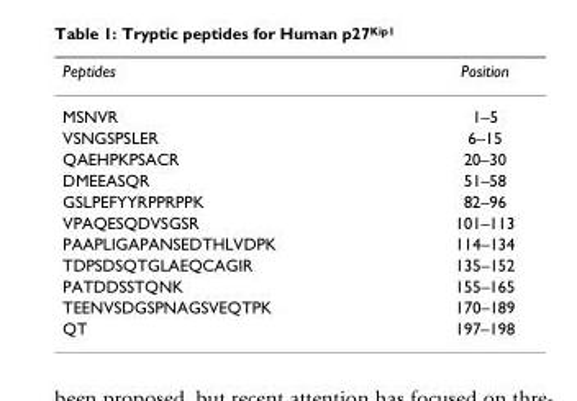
<table><thead><tr><td>Peptides</td><td>Position</td></tr></thead><tbody><tr><td>MSNVR</td><td>1–5</td></tr><tr><td>VSNGSPSLER</td><td>6–15</td></tr><tr><td>QAEHPKPSACR</td><td>20–30</td></tr><tr><td>DMEEASQR</td><td>51–58</td></tr><tr><td>GSLPEFYYRPPRPPK</td><td>82–96</td></tr><tr><td>VPAQESQDVSGSR</td><td>101–113</td></tr><tr><td>PAAPLIGAPANSEDTHLVDPK</td><td>114–134</td></tr><tr><td>TDPSDSQTGLAEQCAGIR</td><td>135–152</td></tr><tr><td>PATDDSSTQNK</td><td>155–165</td></tr><tr><td>TEENVSDGSPNAGSVEQTPK</td><td>170–189</td></tr><tr><td>QT</td><td>197–198</td></tr></tbody></table>